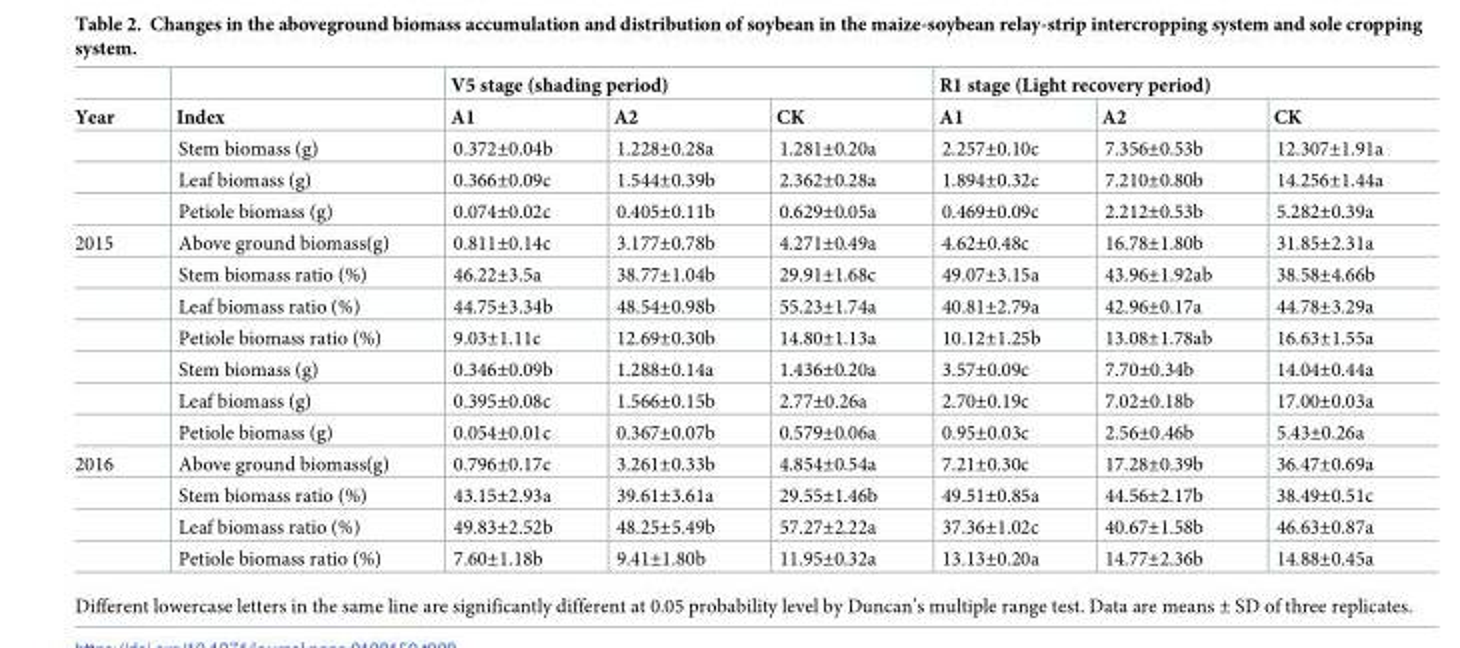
<table><thead><tr><td rowspan="2">Year</td><td rowspan="2">Index</td><td colspan="3">V5 stage (shading period)</td><td colspan="3">R1 stage (Light recovery period)</td></tr><tr><td>A1</td><td>A2</td><td>CK</td><td>A1</td><td>A2</td><td>CK</td></tr></thead><tbody><tr><td></td><td>Stem biomass (g)</td><td>0.372±0.04b</td><td>1.228±0.28a</td><td>1.281±0.20a</td><td>2.257±0.10c</td><td>7.356±0.53b</td><td>12.307±1.91a</td></tr><tr><td></td><td>Leaf biomass (g)</td><td>0.366±0.09c</td><td>1.544±0.39b</td><td>2.362±0.28a</td><td>1.894±0.32c</td><td>7.210±0.80b</td><td>14.256±1.44a</td></tr><tr><td></td><td>Petiole biomass (g)</td><td>0.074±0.02c</td><td>0.405±0.11b</td><td>0.629±0.05a</td><td>0.469±0.09c</td><td>2.212±0.53b</td><td>5.282±0.39a</td></tr><tr><td rowspan="7">2015</td><td>Above ground biomass(g)</td><td>0.811±0.14c</td><td>3.177±0.78b</td><td>4.271±0.49a</td><td>4.62±0.48c</td><td>16.78±1.80b</td><td>31.85±2.31a</td></tr><tr><td>Stem biomass ratio (%)</td><td>46.22±3.5a</td><td>38.77±1.04b</td><td>29.91±1.68c</td><td>49.07±3.15a</td><td>43.96±1.92ab</td><td>38.58±4.66b</td></tr><tr><td>Leaf biomass ratio (%)</td><td>44.75±3.34b</td><td>48.54±0.98b</td><td>55.23±1.74a</td><td>40.81±2.79a</td><td>42.96±0.17a</td><td>44.78±3.29a</td></tr><tr><td>Petiole biomass ratio (%)</td><td>9.03±1.11c</td><td>12.69±0.30b</td><td>14.80±1.13a</td><td>10.12±1.25b</td><td>13.08±1.78ab</td><td>16.63±1.55a</td></tr><tr><td>Stem biomass (g)</td><td>0.346±0.09b</td><td>1.288±0.14a</td><td>1.436±0.20a</td><td>3.57±0.09c</td><td>7.70±0.34b</td><td>14.04±0.44a</td></tr><tr><td>Leaf biomass (g)</td><td>0.395±0.08c</td><td>1.566±0.15b</td><td>2.77±0.26a</td><td>2.70±0.19c</td><td>7.02±0.18b</td><td>17.00±0.03a</td></tr><tr><td>Petiole biomass (g)</td><td>0.054±0.01c</td><td>0.367±0.07b</td><td>0.579±0.06a</td><td>0.95±0.03c</td><td>2.56±0.46b</td><td>5.43±0.26a</td></tr><tr><td rowspan="4">2016</td><td>Above ground biomass(g)</td><td>0.796±0.17c</td><td>3.261±0.33b</td><td>4.854±0.54a</td><td>7.21±0.30c</td><td>17.28±0.39b</td><td>36.47±0.69a</td></tr><tr><td>Stem biomass ratio (%)</td><td>43.15±2.93a</td><td>39.61±3.61a</td><td>29.55±1.46b</td><td>49.51±0.85a</td><td>44.56±2.17b</td><td>38.49±0.51c</td></tr><tr><td>Leaf biomass ratio (%)</td><td>49.83±2.52b</td><td>48.25±5.49b</td><td>57.27±2.22a</td><td>37.36±1.02c</td><td>40.67±1.58b</td><td>46.63±0.87a</td></tr><tr><td>Petiole biomass ratio (%)</td><td>7.60±1.18b</td><td>9.41±1.80b</td><td>11.95±0.32a</td><td>13.13±0.20a</td><td>14.77±2.36b</td><td>14.88±0.45a</td></tr></tbody></table>